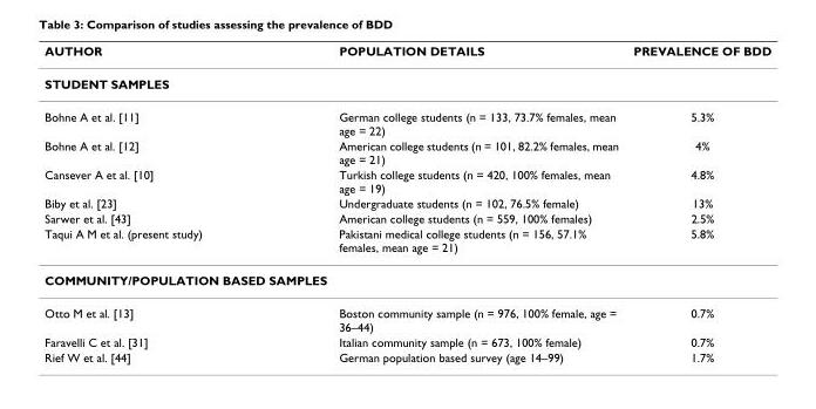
<table><thead><tr><td>AUTHOR</td><td>POPULATION DETAILS</td><td>PREVALENCE OF BDD</td></tr></thead><tbody><tr><td colspan="3">STUDENT SAMPLES</td></tr><tr><td>Bohne A et al. [11]</td><td>German college students (n = 133, 73.7% females, mean age = 22)</td><td>5.3%</td></tr><tr><td>Bohne A et al. [12]</td><td>American college students (n = 101, 82.2% females, mean age = 21)</td><td>4%</td></tr><tr><td>Cansever A et al. [10]</td><td>Turkish college students (n = 420, 100% females, mean age = 19)</td><td>4.8%</td></tr><tr><td>Biby et al. [23]</td><td>Undergraduate students (n = 102, 76.5% female)</td><td>13%</td></tr><tr><td>Sarwer et al. [43]</td><td>American college students (n = 559, 100% females)</td><td>2.5%</td></tr><tr><td>Taqui A M et al. (present study)</td><td>Pakistani medical college students (n = 156, 57.1% females, mean age = 21)</td><td>5.8%</td></tr><tr><td colspan="3">COMMUNITY/POPULATION BASED SAMPLES</td></tr><tr><td>Otto M et al. [13]</td><td>Boston community sample (n = 976, 100% female, age = 36–44)</td><td>0.7%</td></tr><tr><td>Faravelli C et al. [31]</td><td>Italian community sample (n = 673, 100% female)</td><td>0.7%</td></tr><tr><td>Rief W et al. [44]</td><td>German population based survey (age 14–99)</td><td>1.7%</td></tr></tbody></table>